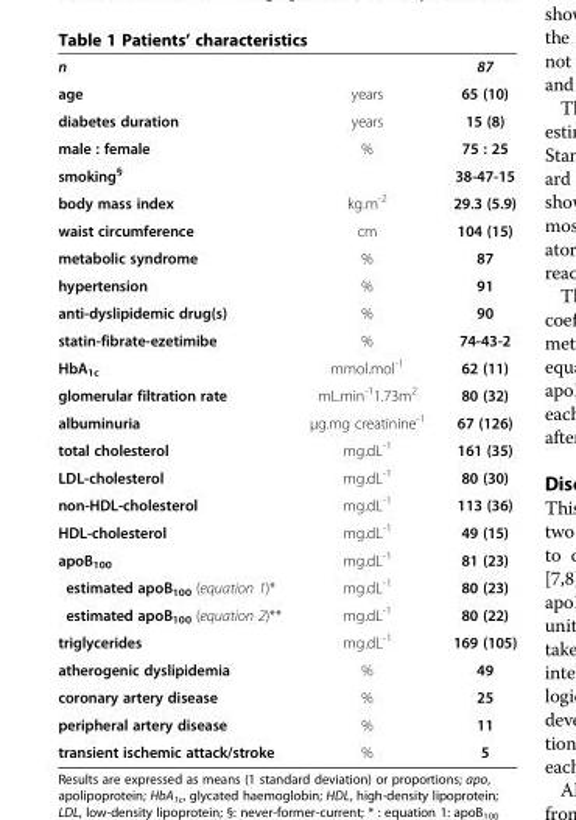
<table><tbody><tr><td>n</td><td></td><td>87</td></tr><tr><td>age</td><td>years</td><td>65 (10)</td></tr><tr><td>diabetes duration</td><td>years</td><td>15 (8)</td></tr><tr><td>male : female</td><td>%</td><td>75 : 25</td></tr><tr><td>smoking<sup>§</sup></td><td></td><td>38-47-15</td></tr><tr><td>body mass index</td><td>kg.m<sup>-2</sup></td><td>29.3 (5.9)</td></tr><tr><td>waist circumference</td><td>cm</td><td>104 (15)</td></tr><tr><td>metabolic syndrome</td><td>%</td><td>87</td></tr><tr><td>hypertension</td><td>%</td><td>91</td></tr><tr><td>anti-dyslipidemic drug(s)</td><td>%</td><td>90</td></tr><tr><td>statin-fibrate-ezetimibe</td><td>%</td><td>74-43-2</td></tr><tr><td>HbA<sub>1c</sub></td><td>mmol.mol<sup>-1</sup></td><td>62 (11)</td></tr><tr><td>glomerular filtration rate</td><td>mL.min<sup>-1</sup>1.73m<sup>2</sup></td><td>80 (32)</td></tr><tr><td>albuminuria</td><td>μg.mg creatinine<sup>-1</sup></td><td>67 (126)</td></tr><tr><td>total cholesterol</td><td>mg.dL<sup>-1</sup></td><td>161 (35)</td></tr><tr><td>LDL-cholesterol</td><td>mg.dL<sup>-1</sup></td><td>80 (30)</td></tr><tr><td>non-HDL-cholesterol</td><td>mg.dL<sup>-1</sup></td><td>113 (36)</td></tr><tr><td>HDL-cholesterol</td><td>mg.dL<sup>-1</sup></td><td>49 (15)</td></tr><tr><td>apoB<sub>100</sub></td><td>mg.dL<sup>-1</sup></td><td>81 (23)</td></tr><tr><td>estimated apoB<sub>100</sub> (equation 1)*</td><td>mg.dL<sup>-1</sup></td><td>80 (23)</td></tr><tr><td>estimated apoB<sub>100</sub> (equation 2)**</td><td>mg.dL<sup>-1</sup></td><td>80 (22)</td></tr><tr><td>triglycerides</td><td>mg.dL<sup>-1</sup></td><td>169 (105)</td></tr><tr><td>atherogenic dyslipidemia</td><td>%</td><td>49</td></tr><tr><td>coronary artery disease</td><td>%</td><td>25</td></tr><tr><td>peripheral artery disease</td><td>%</td><td>11</td></tr><tr><td>transient ischemic attack/stroke</td><td>%</td><td>5</td></tr></tbody></table>